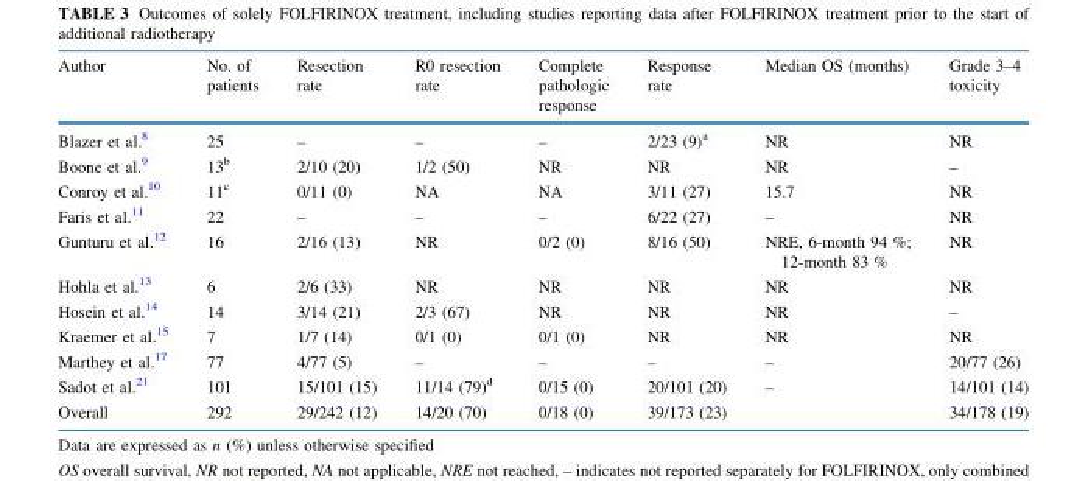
<table><thead><tr><td>Author</td><td>No. of patients</td><td>Resection rate</td><td>R0 resection rate</td><td>Complete pathologic response</td><td>Response rate</td><td>Median OS (months)</td><td>Grade 3–4 toxicity</td></tr></thead><tbody><tr><td>Blazer et al.<sup>8</sup></td><td>25</td><td>–</td><td>–</td><td>–</td><td>2/23 (9)<sup>a</sup></td><td>NR</td><td>NR</td></tr><tr><td>Boone et al.<sup>9</sup></td><td>13<sup>b</sup></td><td>2/10 (20)</td><td>1/2 (50)</td><td>NR</td><td>NR</td><td>NR</td><td>–</td></tr><tr><td>Conroy et al.<sup>10</sup></td><td>11<sup>c</sup></td><td>0/11 (0)</td><td>NA</td><td>NA</td><td>3/11 (27)</td><td>15.7</td><td>NR</td></tr><tr><td>Faris et al.<sup>11</sup></td><td>22</td><td>–</td><td>–</td><td>–</td><td>6/22 (27)</td><td>–</td><td>NR</td></tr><tr><td>Gunturu et al.<sup>12</sup></td><td>16</td><td>2/16 (13)</td><td>NR</td><td>0/2 (0)</td><td>8/16 (50)</td><td>NRE, 6-month 94 %; 12-month 83 %</td><td>NR</td></tr><tr><td>Hohla et al.<sup>13</sup></td><td>6</td><td>2/6 (33)</td><td>NR</td><td>NR</td><td>NR</td><td>NR</td><td>NR</td></tr><tr><td>Hosein et al.<sup>14</sup></td><td>14</td><td>3/14 (21)</td><td>2/3 (67)</td><td>NR</td><td>NR</td><td>NR</td><td>–</td></tr><tr><td>Kraemer et al.<sup>15</sup></td><td>7</td><td>1/7 (14)</td><td>0/1 (0)</td><td>0/1 (0)</td><td>NR</td><td>NR</td><td>NR</td></tr><tr><td>Marthey et al.<sup>17</sup></td><td>77</td><td>4/77 (5)</td><td>–</td><td>–</td><td>–</td><td>–</td><td>20/77 (26)</td></tr><tr><td>Sadot et al.<sup>21</sup></td><td>101</td><td>15/101 (15)</td><td>11/14 (79)<sup>d</sup></td><td>0/15 (0)</td><td>20/101 (20)</td><td>–</td><td>14/101 (14)</td></tr><tr><td>Overall</td><td>292</td><td>29/242 (12)</td><td>14/20 (70)</td><td>0/18 (0)</td><td>39/173 (23)</td><td></td><td>34/178 (19)</td></tr></tbody></table>